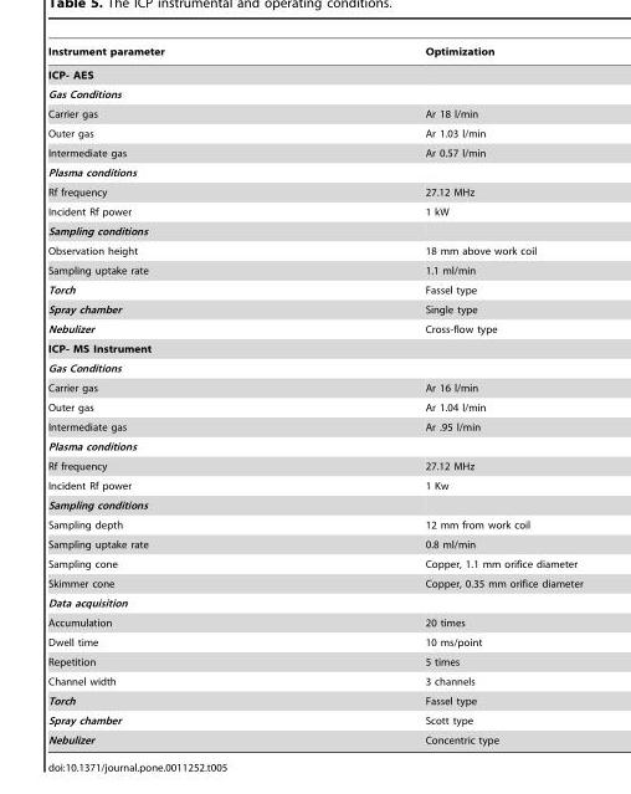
<table><thead><tr><td>Instrument parameter</td><td>Optimization</td></tr></thead><tbody><tr><td colspan="2">ICP- AES</td></tr><tr><td colspan="2">Gas Conditions</td></tr><tr><td>Carrier gas</td><td>Ar 18 l/min</td></tr><tr><td>Outer gas</td><td>Ar 1.03 l/min</td></tr><tr><td>Intermediate gas</td><td>Ar 0.57 l/min</td></tr><tr><td colspan="2">Plasma conditions</td></tr><tr><td>Rf frequency</td><td>27.12 MHz</td></tr><tr><td>Incident Rf power</td><td>1 kW</td></tr><tr><td colspan="2">Sampling conditions</td></tr><tr><td>Observation height</td><td>18 mm above work coil</td></tr><tr><td>Sampling uptake rate</td><td>1.1 ml/min</td></tr><tr><td>Torch</td><td>Fassel type</td></tr><tr><td>Spray chamber</td><td>Single type</td></tr><tr><td>Nebulizer</td><td>Cross-flow type</td></tr><tr><td colspan="2">ICP- MS Instrument</td></tr><tr><td colspan="2">Gas Conditions</td></tr><tr><td>Carrier gas</td><td>Ar 16 l/min</td></tr><tr><td>Outer gas</td><td>Ar 1.04 l/min</td></tr><tr><td>Intermediate gas</td><td>Ar .95 l/min</td></tr><tr><td colspan="2">Plasma conditions</td></tr><tr><td>Rf frequency</td><td>27.12 MHz</td></tr><tr><td>Incident Rf power</td><td>1 Kw</td></tr><tr><td colspan="2">Sampling conditions</td></tr><tr><td>Sampling depth</td><td>12 mm from work coil</td></tr><tr><td>Sampling uptake rate</td><td>0.8 ml/min</td></tr><tr><td>Sampling cone</td><td>Copper, 1.1 mm orifice diameter</td></tr><tr><td>Skimmer cone</td><td>Copper, 0.35 mm orifice diameter</td></tr><tr><td colspan="2">Data acquisition</td></tr><tr><td>Accumulation</td><td>20 times</td></tr><tr><td>Dwell time</td><td>10 ms/point</td></tr><tr><td>Repetition</td><td>5 times</td></tr><tr><td>Channel width</td><td>3 channels</td></tr><tr><td>Torch</td><td>Fassel type</td></tr><tr><td>Spray chamber</td><td>Scott type</td></tr><tr><td>Nebulizer</td><td>Concentric type</td></tr></tbody></table>